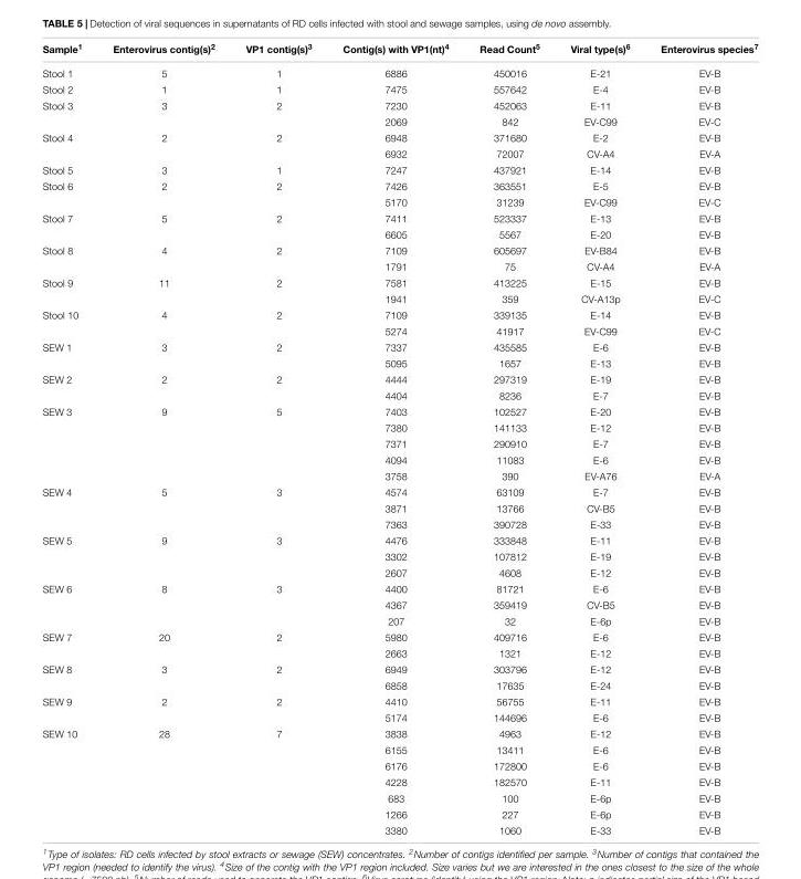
<table><thead><tr><td>Sample<sup>1</sup></td><td>Enterovirus contig(s)<sup>2</sup></td><td>VP1 contig(s)<sup>3</sup></td><td>Contig(s) with VP1(nt)<sup>4</sup></td><td>Read Count<sup>5</sup></td><td>Viral type(s)<sup>6</sup></td><td>Enterovirus species<sup>7</sup></td></tr></thead><tbody><tr><td>Stool 1</td><td>5</td><td>1</td><td>6886</td><td>450016</td><td>E-21</td><td>EV-B</td></tr><tr><td>Stool 2</td><td>1</td><td>1</td><td>7475</td><td>557642</td><td>E-4</td><td>EV-B</td></tr><tr><td rowspan="2">Stool 3</td><td>3</td><td>2</td><td>7230</td><td>452063</td><td>E-11</td><td>EV-B</td></tr><tr><td></td><td></td><td>2069</td><td>842</td><td>EV-C99</td><td>EV-C</td></tr><tr><td rowspan="2">Stool 4</td><td>2</td><td>2</td><td>6948</td><td>371680</td><td>E-2</td><td>EV-B</td></tr><tr><td></td><td></td><td>6932</td><td>72007</td><td>CV-A4</td><td>EV-A</td></tr><tr><td>Stool 5</td><td>3</td><td>1</td><td>7247</td><td>437921</td><td>E-14</td><td>EV-B</td></tr><tr><td rowspan="2">Stool 6</td><td>2</td><td>2</td><td>7426</td><td>363551</td><td>E-5</td><td>EV-B</td></tr><tr><td></td><td></td><td>5170</td><td>31239</td><td>EV-C99</td><td>EV-C</td></tr><tr><td rowspan="2">Stool 7</td><td>5</td><td>2</td><td>7411</td><td>523337</td><td>E-13</td><td>EV-B</td></tr><tr><td></td><td></td><td>6605</td><td>5567</td><td>E-20</td><td>EV-B</td></tr><tr><td rowspan="2">Stool 8</td><td>4</td><td>2</td><td>7109</td><td>605697</td><td>EV-B84</td><td>EV-B</td></tr><tr><td></td><td></td><td>1791</td><td>75</td><td>CV-A4</td><td>EV-A</td></tr><tr><td rowspan="2">Stool 9</td><td>11</td><td>2</td><td>7581</td><td>413225</td><td>E-15</td><td>EV-B</td></tr><tr><td></td><td></td><td>1941</td><td>359</td><td>CV-A13p</td><td>EV-C</td></tr><tr><td rowspan="2">Stool 10</td><td>4</td><td>2</td><td>7109</td><td>339135</td><td>E-14</td><td>EV-B</td></tr><tr><td></td><td></td><td>5274</td><td>41917</td><td>EV-C99</td><td>EV-C</td></tr><tr><td rowspan="2">SEW 1</td><td>3</td><td>2</td><td>7337</td><td>435585</td><td>E-6</td><td>EV-B</td></tr><tr><td></td><td></td><td>5095</td><td>1657</td><td>E-13</td><td>EV-B</td></tr><tr><td rowspan="2">SEW 2</td><td>2</td><td>2</td><td>4444</td><td>297319</td><td>E-19</td><td>EV-B</td></tr><tr><td></td><td></td><td>4404</td><td>8236</td><td>E-7</td><td>EV-B</td></tr><tr><td rowspan="5">SEW 3</td><td>9</td><td>5</td><td>7403</td><td>102527</td><td>E-20</td><td>EV-B</td></tr><tr><td></td><td></td><td>7380</td><td>141133</td><td>E-12</td><td>EV-B</td></tr><tr><td></td><td></td><td>7371</td><td>290910</td><td>E-7</td><td>EV-B</td></tr><tr><td></td><td></td><td>4094</td><td>11083</td><td>E-6</td><td>EV-B</td></tr><tr><td></td><td></td><td>3758</td><td>390</td><td>EV-A76</td><td>EV-A</td></tr><tr><td rowspan="3">SEW 4</td><td>5</td><td>3</td><td>4574</td><td>63109</td><td>E-7</td><td>EV-B</td></tr><tr><td></td><td></td><td>3871</td><td>13766</td><td>CV-B5</td><td>EV-B</td></tr><tr><td></td><td></td><td>7363</td><td>390728</td><td>E-33</td><td>EV-B</td></tr><tr><td rowspan="3">SEW 5</td><td>9</td><td>3</td><td>4476</td><td>333848</td><td>E-11</td><td>EV-B</td></tr><tr><td></td><td></td><td>3302</td><td>107812</td><td>E-19</td><td>EV-B</td></tr><tr><td></td><td></td><td>2607</td><td>4608</td><td>E-12</td><td>EV-B</td></tr><tr><td rowspan="3">SEW 6</td><td>8</td><td>3</td><td>4400</td><td>81721</td><td>E-6</td><td>EV-B</td></tr><tr><td></td><td></td><td>4367</td><td>359419</td><td>CV-B5</td><td>EV-B</td></tr><tr><td></td><td></td><td>207</td><td>32</td><td>E-6p</td><td>EV-B</td></tr><tr><td rowspan="2">SEW 7</td><td>20</td><td>2</td><td>5980</td><td>409716</td><td>E-6</td><td>EV-B</td></tr><tr><td></td><td></td><td>2663</td><td>1321</td><td>E-12</td><td>EV-B</td></tr><tr><td rowspan="2">SEW 8</td><td>3</td><td>2</td><td>6949</td><td>303796</td><td>E-12</td><td>EV-B</td></tr><tr><td></td><td></td><td>6858</td><td>17635</td><td>E-24</td><td>EV-B</td></tr><tr><td rowspan="2">SEW 9</td><td>2</td><td>2</td><td>4410</td><td>56755</td><td>E-11</td><td>EV-B</td></tr><tr><td></td><td></td><td>5174</td><td>144696</td><td>E-6</td><td>EV-B</td></tr><tr><td rowspan="7">SEW 10</td><td>28</td><td>7</td><td>3838</td><td>4963</td><td>E-12</td><td>EV-B</td></tr><tr><td></td><td></td><td>6155</td><td>13411</td><td>E-6</td><td>EV-B</td></tr><tr><td></td><td></td><td>6176</td><td>172800</td><td>E-6</td><td>EV-B</td></tr><tr><td></td><td></td><td>4228</td><td>182570</td><td>E-11</td><td>EV-B</td></tr><tr><td></td><td></td><td>683</td><td>100</td><td>E-6p</td><td>EV-B</td></tr><tr><td></td><td></td><td>1266</td><td>227</td><td>E-6p</td><td>EV-B</td></tr><tr><td></td><td></td><td>3380</td><td>1060</td><td>E-33</td><td>EV-B</td></tr></tbody></table>